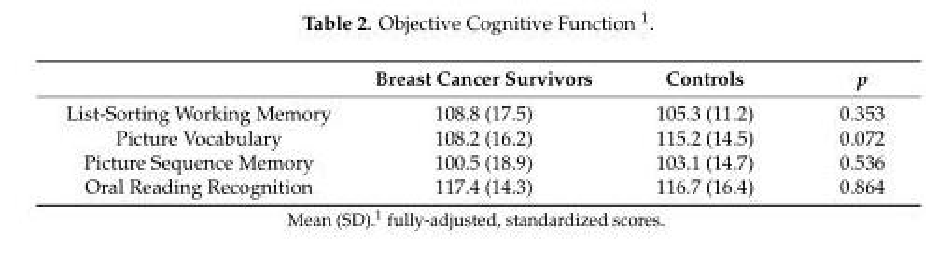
<table><thead><tr><td></td><td>Breast Cancer Survivors</td><td>Controls</td><td>p</td></tr></thead><tbody><tr><td>List-Sorting Working Memory</td><td>108.8 (17.5)</td><td>105.3 (11.2)</td><td>0.353</td></tr><tr><td>Picture Vocabulary</td><td>108.2 (16.2)</td><td>115.2 (14.5)</td><td>0.072</td></tr><tr><td>Picture Sequence Memory</td><td>100.5 (18.9)</td><td>103.1 (14.7)</td><td>0.536</td></tr><tr><td>Oral Reading Recognition</td><td>117.4 (14.3)</td><td>116.7 (16.4)</td><td>0.864</td></tr></tbody></table>